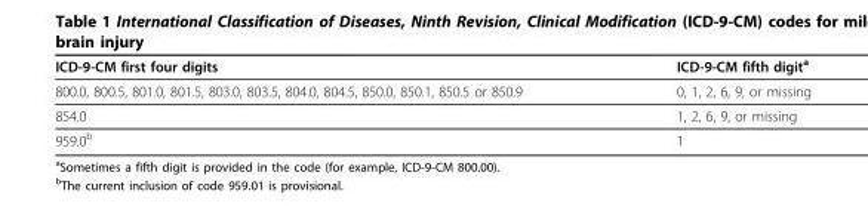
<table><thead><tr><td>ICD-9-CM first four digits</td><td>ICD-9-CM fifth digit<sup>a</sup></td></tr></thead><tbody><tr><td>800.0, 800.5, 801.0, 801.5, 803.0, 803.5, 804.0, 804.5, 850.0, 850.1, 850.5 or 850.9</td><td>0, 1, 2, 6, 9, or missing</td></tr><tr><td>854.0</td><td>1, 2, 6, 9, or missing</td></tr><tr><td>959.0<sup>b</sup></td><td>1</td></tr></tbody></table>